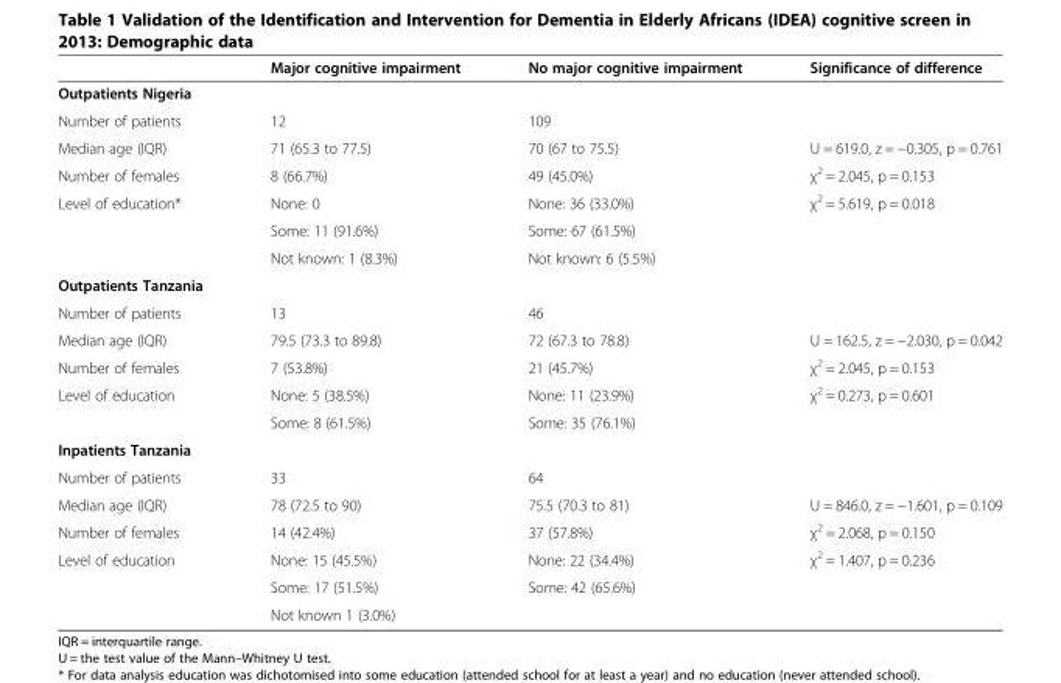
<table><thead><tr><td></td><td>Major cognitive impairment</td><td>No major cognitive impairment</td><td>Significance of difference</td></tr></thead><tbody><tr><td colspan="4">Outpatients Nigeria</td></tr><tr><td>Number of patients</td><td>12</td><td>109</td><td></td></tr><tr><td>Median age (IQR)</td><td>71 (65.3 to 77.5)</td><td>70 (67 to 75.5)</td><td>U = 619.0, z = −0.305, p = 0.761</td></tr><tr><td>Number of females</td><td>8 (66.7%)</td><td>49 (45.0%)</td><td>χ<sup>2</sup> = 2.045, p = 0.153</td></tr><tr><td rowspan="3">Level of education*</td><td>None: 0</td><td>None: 36 (33.0%)</td><td>χ<sup>2</sup> = 5.619, p = 0.018</td></tr><tr><td>Some: 11 (91.6%)</td><td>Some: 67 (61.5%)</td><td></td></tr><tr><td>Not known: 1 (8.3%)</td><td>Not known: 6 (5.5%)</td><td></td></tr><tr><td colspan="4">Outpatients Tanzania</td></tr><tr><td>Number of patients</td><td>13</td><td>46</td><td></td></tr><tr><td>Median age (IQR)</td><td>79.5 (73.3 to 89.8)</td><td>72 (67.3 to 78.8)</td><td>U = 162.5, z = −2.030, p = 0.042</td></tr><tr><td>Number of females</td><td>7 (53.8%)</td><td>21 (45.7%)</td><td>χ<sup>2</sup> = 2.045, p = 0.153</td></tr><tr><td rowspan="2">Level of education</td><td>None: 5 (38.5%)</td><td>None: 11 (23.9%)</td><td rowspan="2">χ<sup>2</sup> = 0.273, p = 0.601</td></tr><tr><td>Some: 8 (61.5%)</td><td>Some: 35 (76.1%)</td></tr><tr><td colspan="4">Inpatients Tanzania</td></tr><tr><td>Number of patients</td><td>33</td><td>64</td><td></td></tr><tr><td>Median age (IQR)</td><td>78 (72.5 to 90)</td><td>75.5 (70.3 to 81)</td><td>U = 846.0, z = −1.601, p = 0.109</td></tr><tr><td>Number of females</td><td>14 (42.4%)</td><td>37 (57.8%)</td><td>χ<sup>2</sup> = 2.068, p = 0.150</td></tr><tr><td rowspan="3">Level of education</td><td>None: 15 (45.5%)</td><td>None: 22 (34.4%)</td><td rowspan="3">χ<sup>2</sup> = 1.407, p = 0.236</td></tr><tr><td>Some: 17 (51.5%)</td><td>Some: 42 (65.6%)</td></tr><tr><td>Not known 1 (3.0%)</td><td></td></tr></tbody></table>